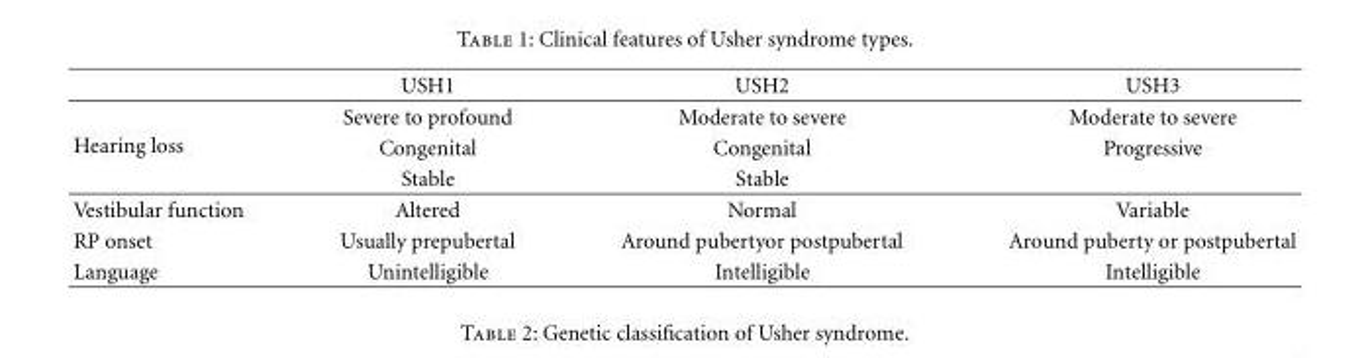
<table><thead><tr><td></td><td>USH1</td><td>USH2</td><td>USH3</td></tr></thead><tbody><tr><td rowspan="3">Hearing loss</td><td>Severe to profound</td><td>Moderate to severe</td><td>Moderate to severe</td></tr><tr><td>Congenital</td><td>Congenital</td><td>Progressive</td></tr><tr><td>Stable</td><td>Stable</td><td></td></tr><tr><td>Vestibular function</td><td>Altered</td><td>Normal</td><td>Variable</td></tr><tr><td>RP onset</td><td>Usually prepubertal</td><td>Around pubertyor postpubertal</td><td>Around puberty or postpubertal</td></tr><tr><td>Language</td><td>Unintelligible</td><td>Intelligible</td><td>Intelligible</td></tr></tbody></table>